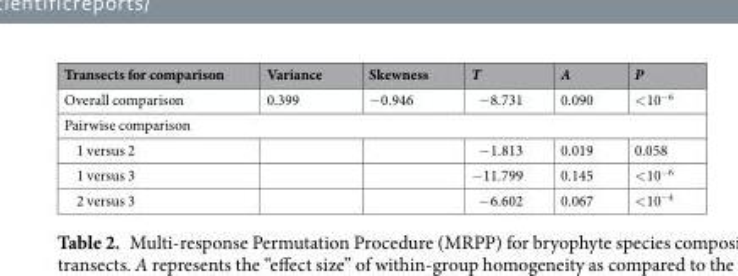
<table><thead><tr><td>Transects for comparison</td><td>Variance</td><td>Skewness</td><td>T</td><td>A</td><td>P</td></tr></thead><tbody><tr><td>Overall comparison</td><td>0.399</td><td>−0.946</td><td>−8.731</td><td>0.090</td><td>&lt;10<sup>−6</sup></td></tr><tr><td colspan="6">Pairwise comparison</td></tr><tr><td>1 versus 2</td><td></td><td></td><td>−1.813</td><td>0.019</td><td>0.058</td></tr><tr><td>1 versus 3</td><td></td><td></td><td>−11.799</td><td>0.145</td><td>&lt;10<sup>−6</sup></td></tr><tr><td>2 versus 3</td><td></td><td></td><td>−6.602</td><td>0.067</td><td>&lt;10<sup>−4</sup></td></tr></tbody></table>